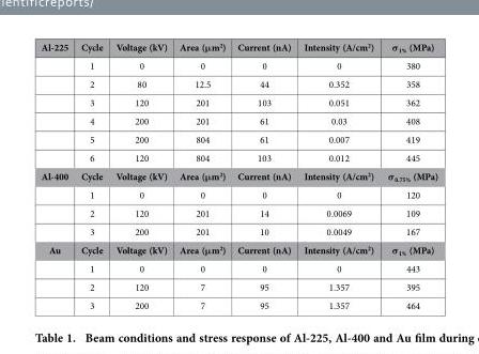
<table><thead><tr><td>Al-225</td><td>Cycle</td><td>Voltage (kV)</td><td>Area (μ m<sup>2</sup>)</td><td>Current (nA)</td><td>Intensity (A/cm<sup>2</sup>)</td><td>σ <sub>1%</sub> (MPa)</td></tr></thead><tbody><tr><td></td><td>1</td><td>0</td><td>0</td><td>0</td><td>0</td><td>380</td></tr><tr><td></td><td>2</td><td>80</td><td>12.5</td><td>44</td><td>0.352</td><td>358</td></tr><tr><td></td><td>3</td><td>120</td><td>201</td><td>103</td><td>0.051</td><td>362</td></tr><tr><td></td><td>4</td><td>200</td><td>201</td><td>61</td><td>0.03</td><td>408</td></tr><tr><td></td><td>5</td><td>200</td><td>804</td><td>61</td><td>0.007</td><td>419</td></tr><tr><td></td><td>6</td><td>120</td><td>804</td><td>103</td><td>0.012</td><td>445</td></tr><tr><td rowspan="4">Al-400</td><td>Cycle</td><td>Voltage (kV)</td><td>Area (μ m<sup>2</sup>)</td><td>Current (nA)</td><td>Intensity (A/cm<sup>2</sup>)</td><td>σ <sub>0.75%</sub> (MPa)</td></tr><tr><td>1</td><td>0</td><td>0</td><td>0</td><td>0</td><td>120</td></tr><tr><td>2</td><td>120</td><td>201</td><td>14</td><td>0.0069</td><td>109</td></tr><tr><td>3</td><td>200</td><td>201</td><td>10</td><td>0.0049</td><td>167</td></tr><tr><td rowspan="4">Au</td><td>Cycle</td><td>Voltage (kV)</td><td>Area (μ m<sup>2</sup>)</td><td>Current (nA)</td><td>Intensity (A/cm<sup>2</sup>)</td><td>σ <sub>1%</sub> (MPa)</td></tr><tr><td>1</td><td>0</td><td>0</td><td>0</td><td>0</td><td>443</td></tr><tr><td>2</td><td>120</td><td>7</td><td>95</td><td>1.357</td><td>395</td></tr><tr><td>3</td><td>200</td><td>7</td><td>95</td><td>1.357</td><td>464</td></tr></tbody></table>